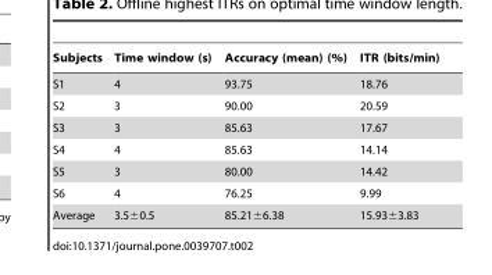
<table><thead><tr><td>Subjects</td><td>Time window (s)</td><td>Accuracy (mean) (%)</td><td>ITR (bits/min)</td></tr></thead><tbody><tr><td>S1</td><td>4</td><td>93.75</td><td>18.76</td></tr><tr><td>S2</td><td>3</td><td>90.00</td><td>20.59</td></tr><tr><td>S3</td><td>3</td><td>85.63</td><td>17.67</td></tr><tr><td>S4</td><td>4</td><td>85.63</td><td>14.14</td></tr><tr><td>S5</td><td>3</td><td>80.00</td><td>14.42</td></tr><tr><td>S6</td><td>4</td><td>76.25</td><td>9.99</td></tr><tr><td>Average</td><td>3.5±0.5</td><td>85.21±6.38</td><td>15.93±3.83</td></tr></tbody></table>